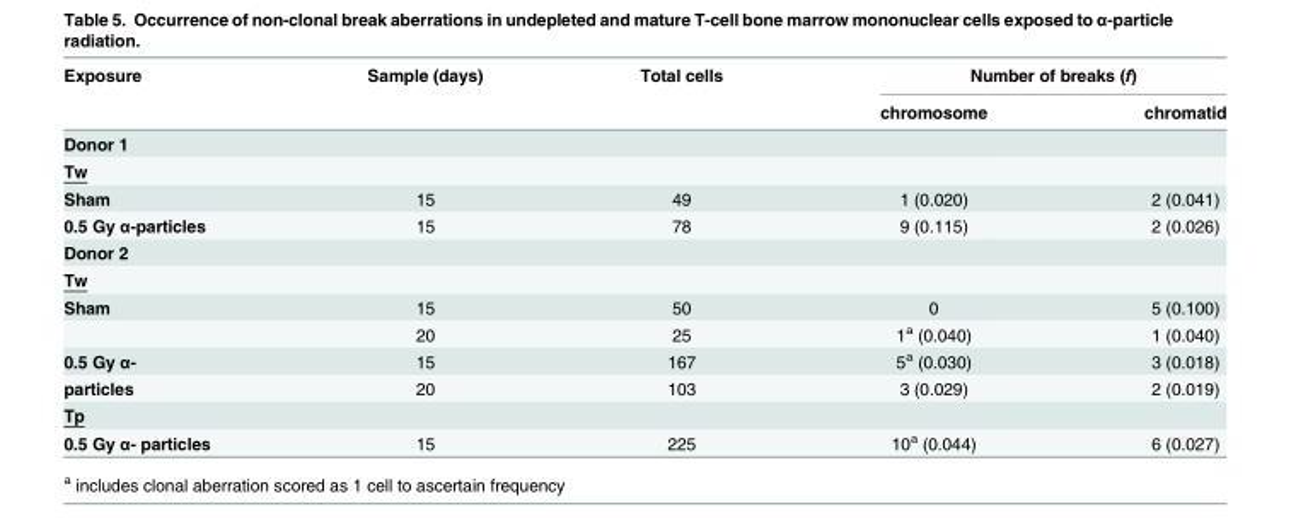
<table><thead><tr><td rowspan="2">Exposure</td><td rowspan="2">Sample (days)</td><td rowspan="2">Total cells</td><td colspan="2">Number of breaks (f)</td></tr><tr><td>chromosome</td><td>chromatid</td></tr></thead><tbody><tr><td colspan="5">Donor 1</td></tr><tr><td colspan="5">Tw</td></tr><tr><td>Sham</td><td>15</td><td>49</td><td>1 (0.020)</td><td>2 (0.041)</td></tr><tr><td>0.5 Gy α-particles</td><td>15</td><td>78</td><td>9 (0.115)</td><td>2 (0.026)</td></tr><tr><td colspan="5">Donor 2</td></tr><tr><td colspan="5">Tw</td></tr><tr><td rowspan="2">Sham</td><td>15</td><td>50</td><td>0</td><td>5 (0.100)</td></tr><tr><td>20</td><td>25</td><td>1<sup>a</sup> (0.040)</td><td>1 (0.040)</td></tr><tr><td>0.5 Gy α-</td><td>15</td><td>167</td><td>5<sup>a</sup> (0.030)</td><td>3 (0.018)</td></tr><tr><td>particles</td><td>20</td><td>103</td><td>3 (0.029)</td><td>2 (0.019)</td></tr><tr><td colspan="5">Tp</td></tr><tr><td>0.5 Gy α- particles</td><td>15</td><td>225</td><td>10<sup>a</sup> (0.044)</td><td>6 (0.027)</td></tr></tbody></table>